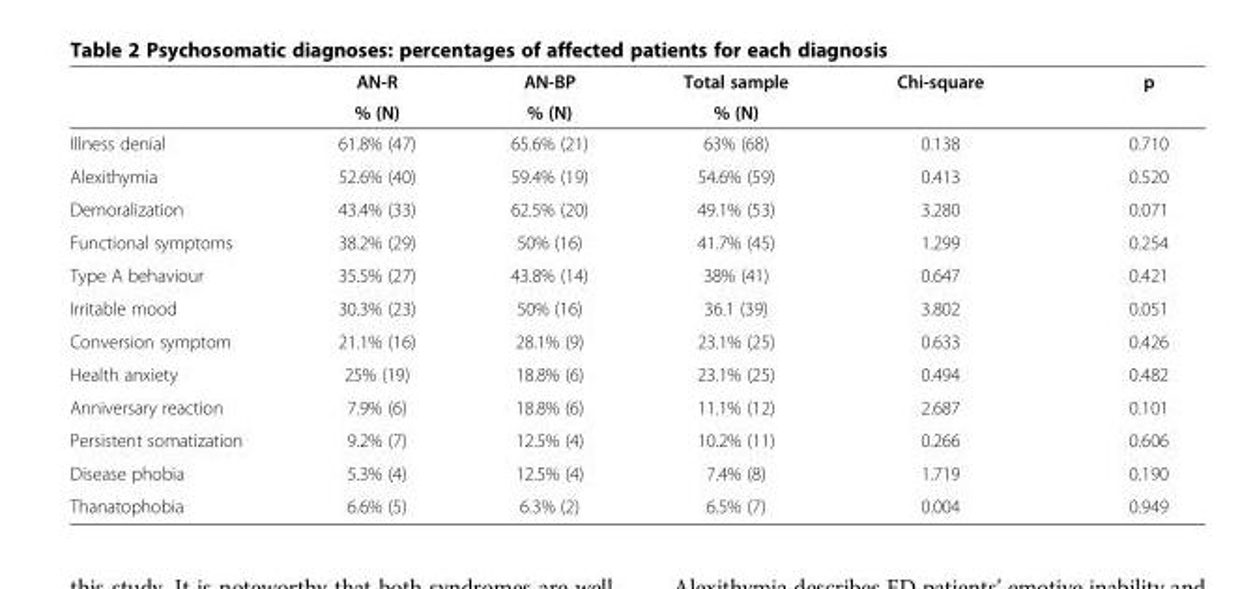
<table><thead><tr><td rowspan="2"></td><td rowspan="2">AN-R % (N)</td><td rowspan="2">AN-BP % (N)</td><td rowspan="2">Total sample % (N)</td><td rowspan="2">Chi-square</td><td rowspan="2">p</td></tr><tr></tr></thead><tbody><tr><td>Illness denial</td><td>61.8% (47)</td><td>65.6% (21)</td><td>63% (68)</td><td>0.138</td><td>0.710</td></tr><tr><td>Alexithymia</td><td>52.6% (40)</td><td>59.4% (19)</td><td>54.6% (59)</td><td>0.413</td><td>0.520</td></tr><tr><td>Demoralization</td><td>43.4% (33)</td><td>62.5% (20)</td><td>49.1% (53)</td><td>3.280</td><td>0.071</td></tr><tr><td>Functional symptoms</td><td>38.2% (29)</td><td>50% (16)</td><td>41.7% (45)</td><td>1.299</td><td>0.254</td></tr><tr><td>Type A behaviour</td><td>35.5% (27)</td><td>43.8% (14)</td><td>38% (41)</td><td>0.647</td><td>0.421</td></tr><tr><td>Irritable mood</td><td>30.3% (23)</td><td>50% (16)</td><td>36.1 (39)</td><td>3.802</td><td>0.051</td></tr><tr><td>Conversion symptom</td><td>21.1% (16)</td><td>28.1% (9)</td><td>23.1% (25)</td><td>0.633</td><td>0.426</td></tr><tr><td>Health anxiety</td><td>25% (19)</td><td>18.8% (6)</td><td>23.1% (25)</td><td>0.494</td><td>0.482</td></tr><tr><td>Anniversary reaction</td><td>7.9% (6)</td><td>18.8% (6)</td><td>11.1% (12)</td><td>2.687</td><td>0.101</td></tr><tr><td>Persistent somatization</td><td>9.2% (7)</td><td>12.5% (4)</td><td>10.2% (11)</td><td>0.266</td><td>0.606</td></tr><tr><td>Disease phobia</td><td>5.3% (4)</td><td>12.5% (4)</td><td>7.4% (8)</td><td>1.719</td><td>0.190</td></tr><tr><td>Thanatophobia</td><td>6.6% (5)</td><td>6.3% (2)</td><td>6.5% (7)</td><td>0.004</td><td>0.949</td></tr></tbody></table>